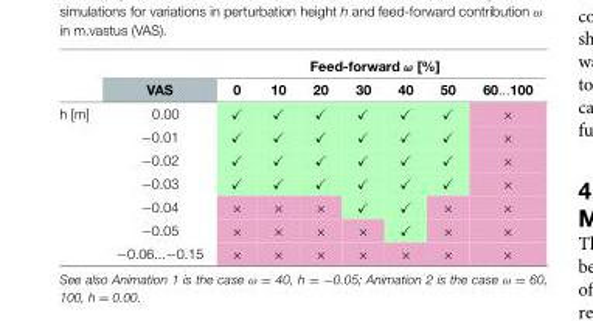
<table><thead><tr><td rowspan="2"></td><td rowspan="2">VAS</td><td colspan="7">Feed-forward ω [%]</td></tr><tr><td>0</td><td>10</td><td>20</td><td>30</td><td>40</td><td>50</td><td>60...100</td></tr></thead><tbody><tr><td rowspan="7">h [m]</td><td>0.00</td><td>✓</td><td>✓</td><td>✓</td><td>✓</td><td>✓</td><td>✓</td><td>×</td></tr><tr><td>−0.01</td><td>✓</td><td>✓</td><td>✓</td><td>✓</td><td>✓</td><td>✓</td><td>×</td></tr><tr><td>−0.02</td><td>✓</td><td>✓</td><td>✓</td><td>✓</td><td>✓</td><td>✓</td><td>×</td></tr><tr><td>−0.03</td><td>✓</td><td>✓</td><td>✓</td><td>✓</td><td>✓</td><td>✓</td><td>×</td></tr><tr><td>−0.04</td><td>×</td><td>×</td><td>×</td><td>✓</td><td>✓</td><td>×</td><td>×</td></tr><tr><td>−0.05</td><td>×</td><td>×</td><td>×</td><td>×</td><td>✓</td><td>×</td><td>×</td></tr><tr><td>−0.06...−0.15</td><td>×</td><td>×</td><td>×</td><td>×</td><td>×</td><td>×</td><td>×</td></tr></tbody></table>